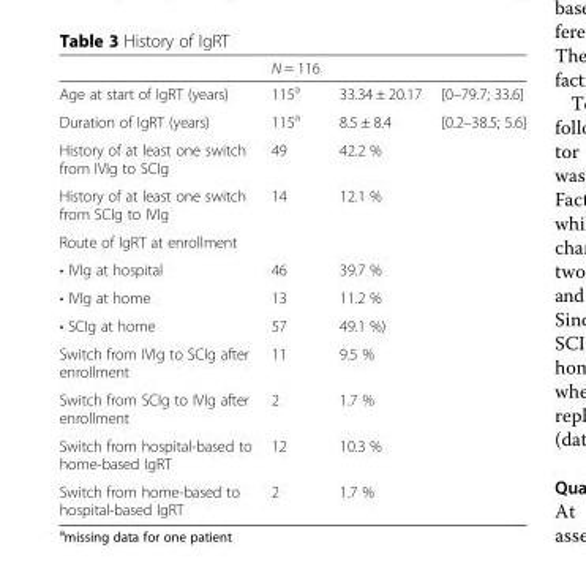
<table><thead><tr><td></td><td>N = 116</td><td></td><td></td></tr></thead><tbody><tr><td>Age at start of IgRT (years)</td><td>115<sup>a</sup></td><td>33.34 ± 20.17</td><td>[0–79.7; 33.6]</td></tr><tr><td>Duration of IgRT (years)</td><td>115<sup>a</sup></td><td>8.5 ± 8.4</td><td>[0.2–38.5; 5.6]</td></tr><tr><td>History of at least one switch from IVIg to SCIg</td><td>49</td><td>42.2 %</td><td></td></tr><tr><td>History of at least one switch from SCIg to IVIg</td><td>14</td><td>12.1 %</td><td></td></tr><tr><td colspan="4">Route of IgRT at enrollment</td></tr><tr><td>• IVIg at hospital</td><td>46</td><td>39.7 %</td><td></td></tr><tr><td>• IVIg at home</td><td>13</td><td>11.2 %</td><td></td></tr><tr><td>• SCIg at home</td><td>57</td><td>49.1 %)</td><td></td></tr><tr><td>Switch from IVIg to SCIg after enrollment</td><td>11</td><td>9.5 %</td><td></td></tr><tr><td>Switch from SCIg to IVIg after enrollment</td><td>2</td><td>1.7 %</td><td></td></tr><tr><td>Switch from hospital-based to home-based IgRT</td><td>12</td><td>10.3 %</td><td></td></tr><tr><td>Switch from home-based to hospital-based IgRT</td><td>2</td><td>1.7 %</td><td></td></tr></tbody></table>